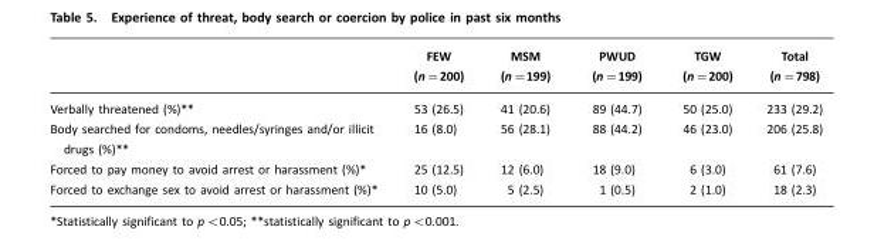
<table><thead><tr><td></td><td>FEW (n=200)</td><td>MSM (n=199)</td><td>PWUD (n=199)</td><td>TGW (n=200)</td><td>Total (n=798)</td></tr></thead><tbody><tr><td>Verbally threatened (%)**</td><td>53 (26.5)</td><td>41 (20.6)</td><td>89 (44.7)</td><td>50 (25.0)</td><td>233 (29.2)</td></tr><tr><td>Body searched for condoms, needles/syringes and/or illicit drugs (%)**</td><td>16 (8.0)</td><td>56 (28.1)</td><td>88 (44.2)</td><td>46 (23.0)</td><td>206 (25.8)</td></tr><tr><td>Forced to pay money to avoid arrest or harassment (%)*</td><td>25 (12.5)</td><td>12 (6.0)</td><td>18 (9.0)</td><td>6 (3.0)</td><td>61 (7.6)</td></tr><tr><td>Forced to exchange sex to avoid arrest or harassment (%)*</td><td>10 (5.0)</td><td>5 (2.5)</td><td>1 (0.5)</td><td>2 (1.0)</td><td>18 (2.3)</td></tr></tbody></table>